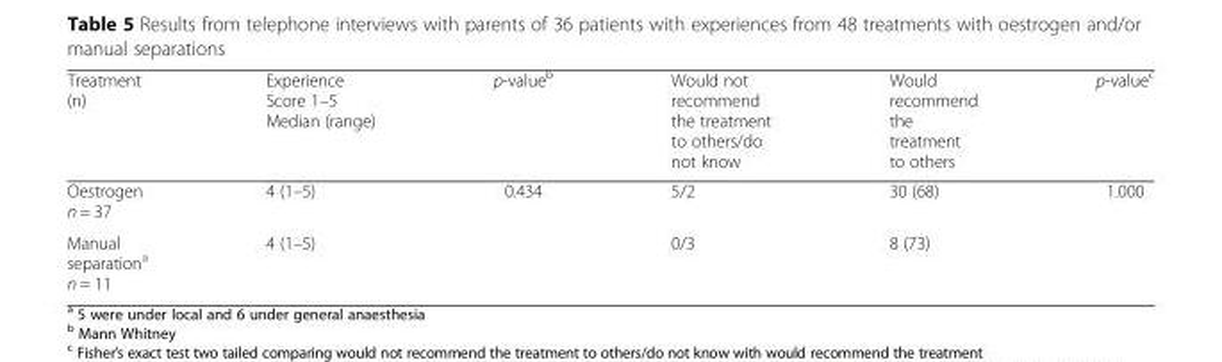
<table><thead><tr><td>Treatment (n)</td><td>Experience Score 1–5 Median (range)</td><td>p-value<sup>b</sup></td><td>Would not recommend the treatment to others/do not know</td><td>Would recommend the treatment to others</td><td>p-value<sup>c</sup></td></tr></thead><tbody><tr><td>Oestrogen n = 37</td><td>4 (1–5)</td><td rowspan="2">0.434</td><td>5/2</td><td>30 (68)</td><td rowspan="2">1.000</td></tr><tr><td>Manual separation<sup>a</sup> n = 11</td><td>4 (1–5)</td><td>0/3</td><td>8 (73)</td></tr></tbody></table>